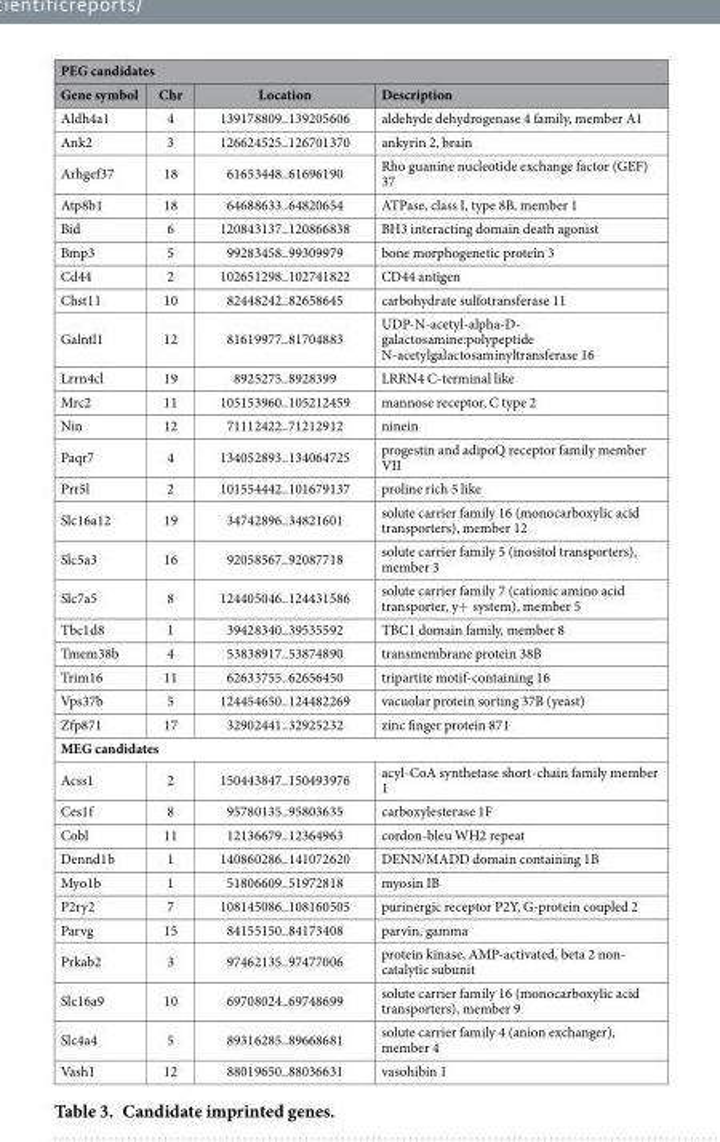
<table><thead><tr><td colspan="4">PEG candidates</td></tr><tr><td>Gene symbol</td><td>Chr</td><td>Location</td><td>Description</td></tr></thead><tbody><tr><td>Aldh4a1</td><td>4</td><td>139178809..139205606</td><td>aldehyde dehydrogenase 4 family, member A1</td></tr><tr><td>Ank2</td><td>3</td><td>126624525..126701370</td><td>ankyrin 2, brain</td></tr><tr><td>Arhgef37</td><td>18</td><td>61653448..61696190</td><td>Rho guanine nucleotide exchange factor (GEF) 37</td></tr><tr><td>Atp8b1</td><td>18</td><td>64688633..64820654</td><td>ATPase, class I, type 8B, member 1</td></tr><tr><td>Bid</td><td>6</td><td>120843137..120866838</td><td>BH3 interacting domain death agonist</td></tr><tr><td>Bmp3</td><td>5</td><td>99283458..99309979</td><td>bone morphogenetic protein 3</td></tr><tr><td>Cd44</td><td>2</td><td>102651298..102741822</td><td>CD44 antigen</td></tr><tr><td>Chst11</td><td>10</td><td>82448242..82658645</td><td>carbohydrate sulfotransferase 11</td></tr><tr><td>Galntl1</td><td>12</td><td>81619977..81704883</td><td>UDP-N-acetyl-alpha-D- galactosamine:polypeptide N-acetylgalactosaminyltransferase 16</td></tr><tr><td>Lrrn4cl</td><td>19</td><td>8925275..8928399</td><td>LRRN4 C-terminal like</td></tr><tr><td>Mrc2</td><td>11</td><td>105153960..105212459</td><td>mannose receptor, C type 2</td></tr><tr><td>Nin</td><td>12</td><td>71112422..71212912</td><td>ninein</td></tr><tr><td>Paqr7</td><td>4</td><td>134052893..134064725</td><td>progestin and adipoQ receptor family member VII</td></tr><tr><td>Prr5l</td><td>2</td><td>101554442..101679137</td><td>proline rich 5 like</td></tr><tr><td>Slc16a12</td><td>19</td><td>34742896..34821601</td><td>solute carrier family 16 (monocarboxylic acid transporters), member 12</td></tr><tr><td>Slc5a3</td><td>16</td><td>92058567..92087718</td><td>solute carrier family 5 (inositol transporters), member 3</td></tr><tr><td>Slc7a5</td><td>8</td><td>124405046..124431586</td><td>solute carrier family 7 (cationic amino acid transporter, y+ system), member 5</td></tr><tr><td>Tbc1d8</td><td>1</td><td>39428340..39535592</td><td>TBC1 domain family, member 8</td></tr><tr><td>Tmem38b</td><td>4</td><td>53838917..53874890</td><td>transmembrane protein 38B</td></tr><tr><td>Trim16</td><td>11</td><td>62633755..62656450</td><td>tripartite motif-containing 16</td></tr><tr><td>Vps37b</td><td>5</td><td>124454650..124482269</td><td>vacuolar protein sorting 37B (yeast)</td></tr><tr><td>Zfp871</td><td>17</td><td>32902441..32925232</td><td>zinc finger protein 871</td></tr><tr><td colspan="4">MEG candidates</td></tr><tr><td>Acss1</td><td>2</td><td>150443847..150493976</td><td>acyl-CoA synthetase short-chain family member 1</td></tr><tr><td>Ces1f</td><td>8</td><td>95780135..95803635</td><td>carboxylesterase 1F</td></tr><tr><td>Cobl</td><td>11</td><td>12136679..12364963</td><td>cordon-bleu WH2 repeat</td></tr><tr><td>Dennd1b</td><td>1</td><td>140860286..141072620</td><td>DENN/MADD domain containing 1B</td></tr><tr><td>Myo1b</td><td>1</td><td>51806609..51972818</td><td>myosin IB</td></tr><tr><td>P2ry2</td><td>7</td><td>108145086..108160505</td><td>purinergic receptor P2Y, G-protein coupled 2</td></tr><tr><td>Parvg</td><td>15</td><td>84155150..84173408</td><td>parvin, gamma</td></tr><tr><td>Prkab2</td><td>3</td><td>97462135..97477006</td><td>protein kinase, AMP-activated, beta 2 non- catalytic subunit</td></tr><tr><td>Slc16a9</td><td>10</td><td>69708024..69748699</td><td>solute carrier family 16 (monocarboxylic acid transporters), member 9</td></tr><tr><td>Slc4a4</td><td>5</td><td>89316285..89668681</td><td>solute carrier family 4 (anion exchanger), member 4</td></tr><tr><td>Vash1</td><td>12</td><td>88019650..88036631</td><td>vasohibin 1</td></tr></tbody></table>